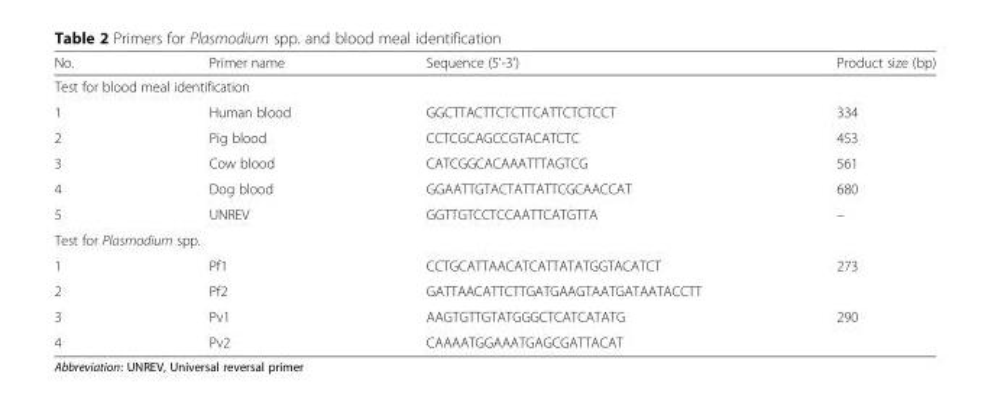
<table><thead><tr><td>No.</td><td>Primer name</td><td>Sequence (5&#x27;-3&#x27;)</td><td>Product size (bp)</td></tr></thead><tbody><tr><td colspan="4">Test for blood meal identification</td></tr><tr><td>1</td><td>Human blood</td><td>GGCTTACTTCTCTTCATTCTCTCCT</td><td>334</td></tr><tr><td>2</td><td>Pig blood</td><td>CCTCGCAGCCGTACATCTC</td><td>453</td></tr><tr><td>3</td><td>Cow blood</td><td>CATCGGCACAAATTTAGTCG</td><td>561</td></tr><tr><td>4</td><td>Dog blood</td><td>GGAATTGTACTATTATTCGCAACCAT</td><td>680</td></tr><tr><td>5</td><td>UNREV</td><td>GGTTGTCCTCCAATTCATGTTA</td><td>–</td></tr><tr><td colspan="4">Test for Plasmodium spp.</td></tr><tr><td>1</td><td>Pf1</td><td>CCTGCATTAACATCATTATATGGTACATCT</td><td rowspan="2">273</td></tr><tr><td>2</td><td>Pf2</td><td>GATTAACATTCTTGATGAAGTAATGATAATACCTT</td></tr><tr><td>3</td><td>Pv1</td><td>AAGTGTTGTATGGGCTCATCATATG</td><td rowspan="2">290</td></tr><tr><td>4</td><td>Pv2</td><td>CAAAATGGAAATGAGCGATTACAT</td></tr></tbody></table>